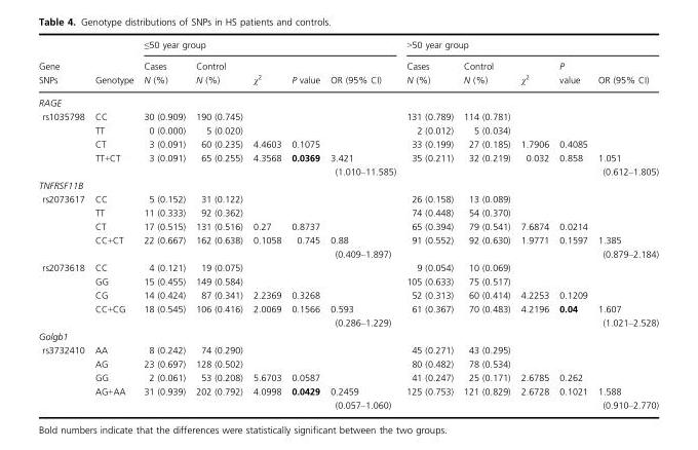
<table><thead><tr><td rowspan="2">Gene SNPs</td><td rowspan="2">Genotype</td><td colspan="5">≤50 year group</td><td colspan="5">&gt;50 year group</td></tr><tr><td>Cases N (%)</td><td>Control N (%)</td><td>χ<sup>2</sup></td><td>P value</td><td>OR (95% CI)</td><td>Cases N (%)</td><td>Control N (%)</td><td>χ<sup>2</sup></td><td>P value</td><td>OR (95% CI)</td></tr></thead><tbody><tr><td colspan="12">RAGE</td></tr><tr><td rowspan="4">rs1035798</td><td>CC</td><td>30 (0.909)</td><td>190 (0.745)</td><td></td><td></td><td></td><td>131 (0.789)</td><td>114 (0.781)</td><td></td><td></td><td></td></tr><tr><td>TT</td><td>0 (0.000)</td><td>5 (0.020)</td><td></td><td></td><td></td><td>2 (0.012)</td><td>5 (0.034)</td><td></td><td></td><td></td></tr><tr><td>CT</td><td>3 (0.091)</td><td>60 (0.235)</td><td>4.4603</td><td>0.1075</td><td></td><td>33 (0.199)</td><td>27 (0.185)</td><td>1.7906</td><td>0.4085</td><td></td></tr><tr><td>TT+CT</td><td>3 (0.091)</td><td>65 (0.255)</td><td>4.3568</td><td>0.0369</td><td>3.421 (1.010–11.585)</td><td>35 (0.211)</td><td>32 (0.219)</td><td>0.032</td><td>0.858</td><td>1.051 (0.612–1.805)</td></tr><tr><td colspan="12">TNFRSF11B</td></tr><tr><td rowspan="4">rs2073617</td><td>CC</td><td>5 (0.152)</td><td>31 (0.122)</td><td></td><td></td><td></td><td>26 (0.158)</td><td>13 (0.089)</td><td></td><td></td><td></td></tr><tr><td>TT</td><td>11 (0.333)</td><td>92 (0.362)</td><td></td><td></td><td></td><td>74 (0.448)</td><td>54 (0.370)</td><td></td><td></td><td></td></tr><tr><td>CT</td><td>17 (0.515)</td><td>131 (0.516)</td><td>0.27</td><td>0.8737</td><td></td><td>65 (0.394)</td><td>79 (0.541)</td><td>7.6874</td><td>0.0214</td><td></td></tr><tr><td>CC+CT</td><td>22 (0.667)</td><td>162 (0.638)</td><td>0.1058</td><td>0.745</td><td>0.88 (0.409–1.897)</td><td>91 (0.552)</td><td>92 (0.630)</td><td>1.9771</td><td>0.1597</td><td>1.385 (0.879–2.184)</td></tr><tr><td rowspan="4">rs2073618</td><td>CC</td><td>4 (0.121)</td><td>19 (0.075)</td><td></td><td></td><td></td><td>9 (0.054)</td><td>10 (0.069)</td><td></td><td></td><td></td></tr><tr><td>GG</td><td>15 (0.455)</td><td>149 (0.584)</td><td></td><td></td><td></td><td>105 (0.633)</td><td>75 (0.517)</td><td></td><td></td><td></td></tr><tr><td>CG</td><td>14 (0.424)</td><td>87 (0.341)</td><td>2.2369</td><td>0.3268</td><td></td><td>52 (0.313)</td><td>60 (0.414)</td><td>4.2253</td><td>0.1209</td><td></td></tr><tr><td>CC+CG</td><td>18 (0.545)</td><td>106 (0.416)</td><td>2.0069</td><td>0.1566</td><td>0.593 (0.286–1.229)</td><td>61 (0.367)</td><td>70 (0.483)</td><td>4.2196</td><td>0.04</td><td>1.607 (1.021–2.528)</td></tr><tr><td colspan="12">Golgb1</td></tr><tr><td rowspan="4">rs3732410</td><td>AA</td><td>8 (0.242)</td><td>74 (0.290)</td><td></td><td></td><td></td><td>45 (0.271)</td><td>43 (0.295)</td><td></td><td></td><td></td></tr><tr><td>AG</td><td>23 (0.697)</td><td>128 (0.502)</td><td></td><td></td><td></td><td>80 (0.482)</td><td>78 (0.534)</td><td></td><td></td><td></td></tr><tr><td>GG</td><td>2 (0.061)</td><td>53 (0.208)</td><td>5.6703</td><td>0.0587</td><td></td><td>41 (0.247)</td><td>25 (0.171)</td><td>2.6785</td><td>0.262</td><td></td></tr><tr><td>AG+AA</td><td>31 (0.939)</td><td>202 (0.792)</td><td>4.0998</td><td>0.0429</td><td>0.2459 (0.057–1.060)</td><td>125 (0.753)</td><td>121 (0.829)</td><td>2.6728</td><td>0.1021</td><td>1.588 (0.910–2.770)</td></tr></tbody></table>